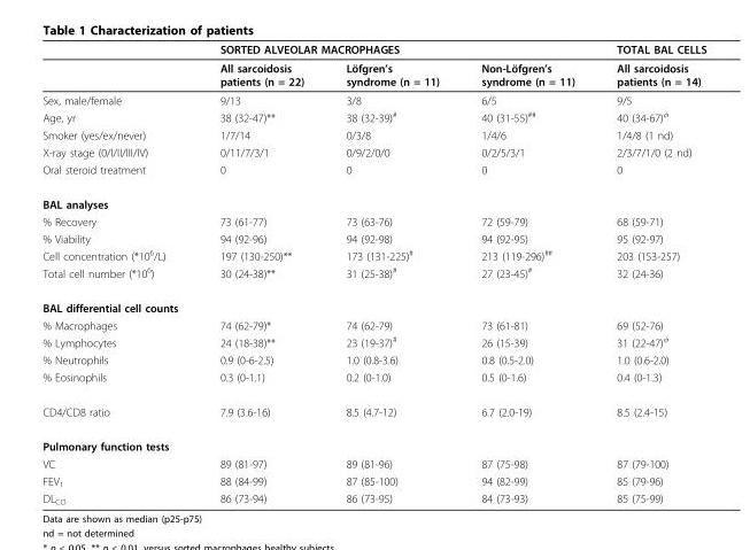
<table><thead><tr><td rowspan="2"></td><td colspan="3">SORTED ALVEOLAR MACROPHAGES</td><td rowspan="2">TOTAL BAL CELLS All sarcoidosis patients (n = 14)</td></tr><tr><td>All sarcoidosis patients (n = 22)</td><td>Löfgren’s syndrome (n = 11)</td><td>Non-Löfgren’s syndrome (n = 11)</td></tr></thead><tbody><tr><td>Sex, male/female</td><td>9/13</td><td>3/8</td><td>6/5</td><td>9/5</td></tr><tr><td>Age, yr</td><td>38 (32-47)**</td><td>38 (32-39)<sup>#</sup></td><td>40 (31-55)<sup>##</sup></td><td>40 (34-67)<sup>φ</sup></td></tr><tr><td>Smoker (yes/ex/never)</td><td>1/7/14</td><td>0/3/8</td><td>1/4/6</td><td>1/4/8 (1 nd)</td></tr><tr><td>X-ray stage (0/I/II/III/IV)</td><td>0/11/7/3/1</td><td>0/9/2/0/0</td><td>0/2/5/3/1</td><td>2/3/7/1/0 (2 nd)</td></tr><tr><td>Oral steroid treatment</td><td>0</td><td>0</td><td>0</td><td>0</td></tr><tr><td colspan="5">BAL analyses</td></tr><tr><td>% Recovery</td><td>73 (61-77)</td><td>73 (63-76)</td><td>72 (59-79)</td><td>68 (59-71)</td></tr><tr><td>% Viability</td><td>94 (92-96)</td><td>94 (92-98)</td><td>94 (92-95)</td><td>95 (92-97)</td></tr><tr><td>Cell concentration (*10<sup>6</sup>/L)</td><td>197 (130-250)**</td><td>173 (131-225)<sup>#</sup></td><td>213 (119-296)<sup>##</sup></td><td>203 (153-257)</td></tr><tr><td>Total cell number (*10<sup>6</sup>)</td><td>30 (24-38)**</td><td>31 (25-38)<sup>#</sup></td><td>27 (23-45)<sup>#</sup></td><td>32 (24-36)</td></tr><tr><td colspan="5">BAL differential cell counts</td></tr><tr><td>% Macrophages</td><td>74 (62-79)*</td><td>74 (62-79)</td><td>73 (61-81)</td><td>69 (52-76)</td></tr><tr><td>% Lymphocytes</td><td>24 (18-38)**</td><td>23 (19-37)<sup>#</sup></td><td>26 (15-39)</td><td>31 (22-47)<sup>φ</sup></td></tr><tr><td>% Neutrophils</td><td>0.9 (0-6-2.5)</td><td>1.0 (0.8-3.6)</td><td>0.8 (0.5-2.0)</td><td>1.0 (0.6-2.0)</td></tr><tr><td>% Eosinophils</td><td>0.3 (0-1.1)</td><td>0.2 (0-1.0)</td><td>0.5 (0-1.6)</td><td>0.4 (0-1.3)</td></tr><tr><td>CD4/CD8 ratio</td><td>7.9 (3.6-16)</td><td>8.5 (4.7-12)</td><td>6.7 (2.0-19)</td><td>8.5 (2.4-15)</td></tr><tr><td colspan="5">Pulmonary function tests</td></tr><tr><td>VC</td><td>89 (81-97)</td><td>89 (81-96)</td><td>87 (75-98)</td><td>87 (79-100)</td></tr><tr><td>FEV<sub>1</sub></td><td>88 (84-99)</td><td>87 (85-100)</td><td>94 (82-99)</td><td>85 (79-96)</td></tr><tr><td>DL<sub>CO</sub></td><td>86 (73-94)</td><td>86 (73-95)</td><td>84 (73-93)</td><td>85 (75-99)</td></tr></tbody></table>